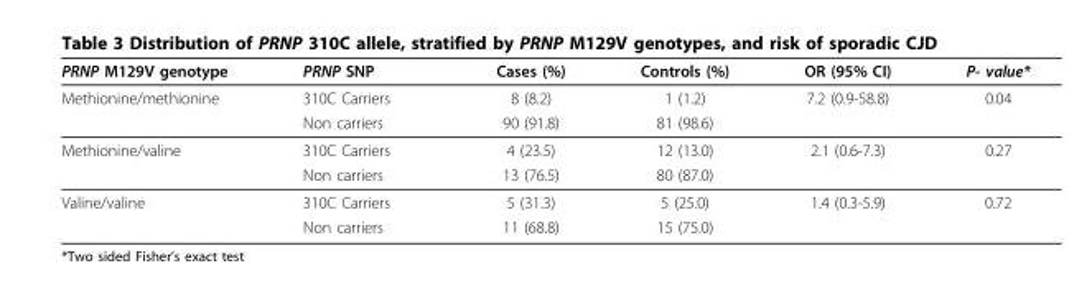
<table><thead><tr><td>PRNP M129V genotype</td><td>PRNP SNP</td><td>Cases (%)</td><td>Controls (%)</td><td>OR (95% CI)</td><td>P- value*</td></tr></thead><tbody><tr><td rowspan="2">Methionine/methionine</td><td>310C Carriers</td><td>8 (8.2)</td><td>1 (1.2)</td><td>7.2 (0.9-58.8)</td><td>0.04</td></tr><tr><td>Non carriers</td><td>90 (91.8)</td><td>81 (98.6)</td><td></td><td></td></tr><tr><td rowspan="2">Methionine/valine</td><td>310C Carriers</td><td>4 (23.5)</td><td>12 (13.0)</td><td>2.1 (0.6-7.3)</td><td>0.27</td></tr><tr><td>Non carriers</td><td>13 (76.5)</td><td>80 (87.0)</td><td></td><td></td></tr><tr><td rowspan="2">Valine/valine</td><td>310C Carriers</td><td>5 (31.3)</td><td>5 (25.0)</td><td>1.4 (0.3-5.9)</td><td>0.72</td></tr><tr><td>Non carriers</td><td>11 (68.8)</td><td>15 (75.0)</td><td></td><td></td></tr></tbody></table>